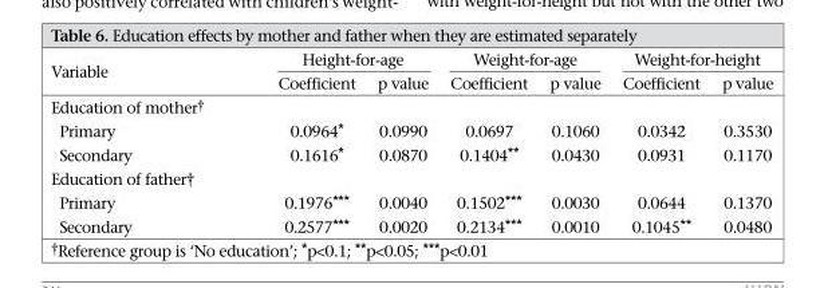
<table><thead><tr><td rowspan="2">Variable</td><td colspan="2">Height-for-age</td><td colspan="2">Weight-for-age</td><td colspan="2">Weight-for-height</td></tr><tr><td>Coefficient</td><td>p value</td><td>Coefficient</td><td>p value</td><td>Coefficient</td><td>p value</td></tr></thead><tbody><tr><td colspan="7">Education of mother†</td></tr><tr><td>Primary</td><td>0.0964*</td><td>0.0990</td><td>0.0697</td><td>0.1060</td><td>0.0342</td><td>0.3530</td></tr><tr><td>Secondary</td><td>0.1616*</td><td>0.0870</td><td>0.1404**</td><td>0.0430</td><td>0.0931</td><td>0.1170</td></tr><tr><td colspan="7">Education of father†</td></tr><tr><td>Primary</td><td>0.1976***</td><td>0.0040</td><td>0.1502***</td><td>0.0030</td><td>0.0644</td><td>0.1370</td></tr><tr><td>Secondary</td><td>0.2577***</td><td>0.0020</td><td>0.2134***</td><td>0.0010</td><td>0.1045**</td><td>0.0480</td></tr></tbody></table>